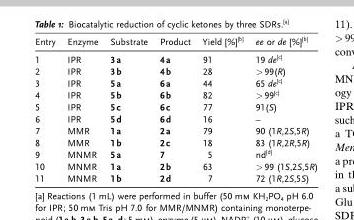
<table><thead><tr><td>Entry</td><td>Enzyme</td><td>Substrate</td><td>Product</td><td>Yield [%]<sup>[b]</sup></td><td>ee or de [%]<sup>[b]</sup></td></tr></thead><tbody><tr><td>1</td><td>IPR</td><td>3a</td><td>4a</td><td>91</td><td>19 de<sup>[c]</sup></td></tr><tr><td>2</td><td>IPR</td><td>3b</td><td>4b</td><td>28</td><td>&gt;99(R)</td></tr><tr><td>3</td><td>IPR</td><td>5a</td><td>6a</td><td>44</td><td>65 de<sup>[c]</sup></td></tr><tr><td>4</td><td>IPR</td><td>5b</td><td>6b</td><td>82</td><td>&gt;99<sup>[c]</sup></td></tr><tr><td>5</td><td>IPR</td><td>5c</td><td>6c</td><td>77</td><td>91(S)</td></tr><tr><td>6</td><td>IPR</td><td>5d</td><td>6d</td><td>16</td><td>–</td></tr><tr><td>7</td><td>MMR</td><td>1a</td><td>2a</td><td>79</td><td>90 (1R,2S,5R)</td></tr><tr><td>8</td><td>MMR</td><td>1b</td><td>2c</td><td>18</td><td>83 (1R,2R,5R)</td></tr><tr><td>9</td><td>MNMR</td><td>5a</td><td>7</td><td>5</td><td>nd<sup>[d]</sup></td></tr><tr><td>10</td><td>MNMR</td><td>1a</td><td>2b</td><td>63</td><td>&gt;99 (1S,2S,5R)</td></tr><tr><td>11</td><td>MNMR</td><td>1b</td><td>2d</td><td>7</td><td>72 (1R,2S,5S)</td></tr></tbody></table>